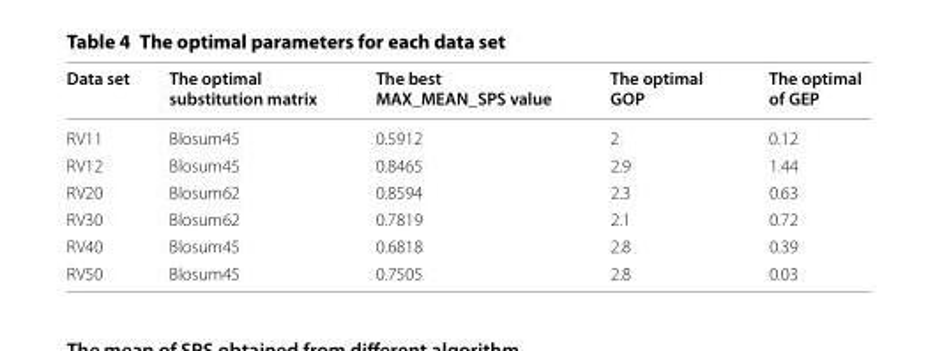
<table><thead><tr><td>Data set</td><td>The optimal substitution matrix</td><td>The best MAX_MEAN_SPS value</td><td>The optimal GOP</td><td>The optimal of GEP</td></tr></thead><tbody><tr><td>RV11</td><td>Blosum45</td><td>0.5912</td><td>2</td><td>0.12</td></tr><tr><td>RV12</td><td>Blosum45</td><td>0.8465</td><td>2.9</td><td>1.44</td></tr><tr><td>RV20</td><td>Blosum62</td><td>0.8594</td><td>2.3</td><td>0.63</td></tr><tr><td>RV30</td><td>Blosum62</td><td>0.7819</td><td>2.1</td><td>0.72</td></tr><tr><td>RV40</td><td>Blosum45</td><td>0.6818</td><td>2.8</td><td>0.39</td></tr><tr><td>RV50</td><td>Blosum45</td><td>0.7505</td><td>2.8</td><td>0.03</td></tr></tbody></table>